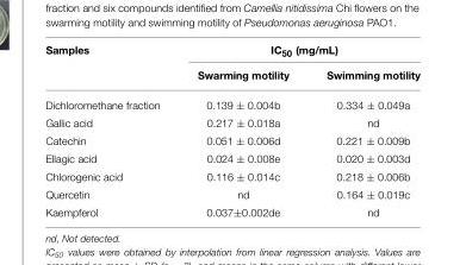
<table><thead><tr><td rowspan="2">Samples</td><td colspan="2">IC<sub>50</sub> (mg/mL)</td></tr><tr><td>Swarming motility</td><td>Swimming motility</td></tr></thead><tbody><tr><td>Dichloromethane fraction</td><td>0.139 ± 0.004b</td><td>0.334 ± 0.049a</td></tr><tr><td>Gallic acid</td><td>0.217 ± 0.018a</td><td>nd</td></tr><tr><td>Catechin</td><td>0.051 ± 0.006d</td><td>0.221 ± 0.009b</td></tr><tr><td>Ellagic acid</td><td>0.024 ± 0.008e</td><td>0.020 ± 0.003d</td></tr><tr><td>Chlorogenic acid</td><td>0.116 ± 0.014c</td><td>0.218 ± 0.006b</td></tr><tr><td>Quercetin</td><td>nd</td><td>0.164 ± 0.019c</td></tr><tr><td>Kaempferol</td><td>0.037±0.002de</td><td>nd</td></tr></tbody></table>